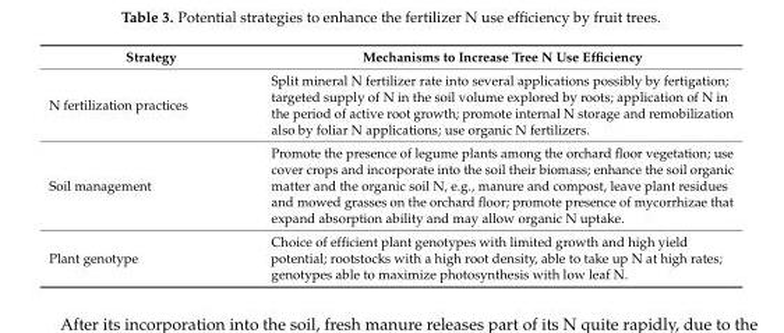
<table><thead><tr><td>Strategy</td><td>Mechanisms to Increase Tree N Use Efficiency</td></tr></thead><tbody><tr><td>N fertilization practices</td><td>Split mineral N fertilizer rate into several applications possibly by fertigation; targeted supply of N in the soil volume explored by roots; application of N in the period of active root growth; promote internal N storage and remobilization also by foliar N applications; use organic N fertilizers.</td></tr><tr><td>Soil management</td><td>Promote the presence of legume plants among the orchard floor vegetation; use cover crops and incorporate into the soil their biomass; enhance the soil organic matter and the organic soil N, e.g., manure and compost, leave plant residues and mowed grasses on the orchard floor; promote presence of mycorrhizae that expand absorption ability and may allow organic N uptake.</td></tr><tr><td>Plant genotype</td><td>Choice of efficient plant genotypes with limited growth and high yield potential; rootstocks with a high root density, able to take up N at high rates; genotypes able to maximize photosynthesis with low leaf N.</td></tr></tbody></table>